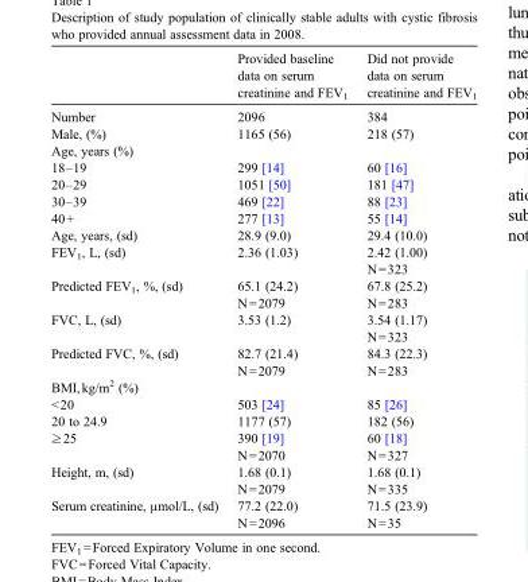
<table><thead><tr><td></td><td>Provided baseline data on serum creatinine and FEV<sub>1</sub></td><td>Did not provide data on serum creatinine and FEV<sub>1</sub></td></tr></thead><tbody><tr><td>Number</td><td>2096</td><td>384</td></tr><tr><td>Male, (%)</td><td>1165 (56)</td><td>218 (57)</td></tr><tr><td colspan="3">Age, years (%)</td></tr><tr><td>18–19</td><td>299 [14]</td><td>60 [16]</td></tr><tr><td>20–29</td><td>1051 [50]</td><td>181 [47]</td></tr><tr><td>30–39</td><td>469 [22]</td><td>88 [23]</td></tr><tr><td>40+</td><td>277 [13]</td><td>55 [14]</td></tr><tr><td>Age, years, (sd)</td><td>28.9 (9.0)</td><td>29.4 (10.0)</td></tr><tr><td>FEV<sub>1</sub>, L, (sd)</td><td>2.36 (1.03)</td><td>2.42 (1.00) N=323</td></tr><tr><td>Predicted FEV<sub>1</sub>, %, (sd)</td><td>65.1 (24.2) N=2079</td><td>67.8 (25.2) N=283</td></tr><tr><td>FVC, L, (sd)</td><td>3.53 (1.2)</td><td>3.54 (1.17) N=323</td></tr><tr><td>Predicted FVC, %, (sd)</td><td>82.7 (21.4) N=2079</td><td>84.3 (22.3) N=283</td></tr><tr><td colspan="3">BMI,kg/m<sup>2</sup> (%)</td></tr><tr><td>&lt;20</td><td>503 [24]</td><td>85 [26]</td></tr><tr><td>20 to 24.9</td><td>1177 (57)</td><td>182 (56)</td></tr><tr><td>≥25</td><td>390 [19] N=2070</td><td>60 [18] N=327</td></tr><tr><td>Height, m, (sd)</td><td>1.68 (0.1) N=2079</td><td>1.68 (0.1) N=335</td></tr><tr><td>Serum creatinine, μmol/L, (sd)</td><td>77.2 (22.0) N=2096</td><td>71.5 (23.9) N=35</td></tr></tbody></table>